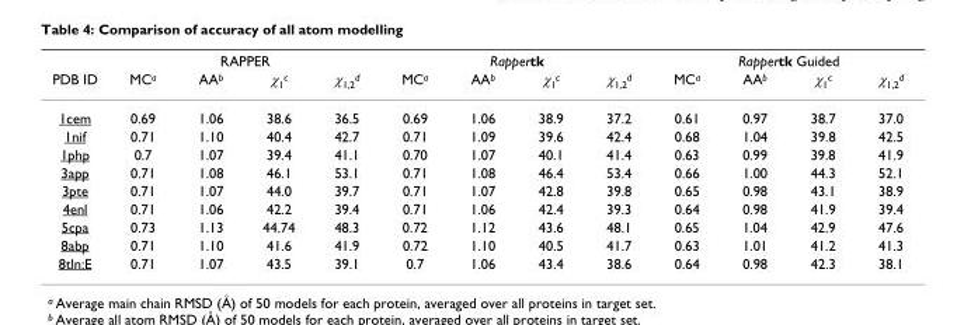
<table><thead><tr><td rowspan="2">PDB ID</td><td colspan="4">RAPPER</td><td colspan="4">Rappertk</td><td colspan="4">Rappertk Guided</td></tr><tr><td>MCa</td><td>AAb</td><td>χ1c</td><td>χ1,2d</td><td>MCa</td><td>AAb</td><td>χ1c</td><td>χ1,2d</td><td>MCa</td><td>AAb</td><td>χ1c</td><td>χ1,2d</td></tr></thead><tbody><tr><td>1cem</td><td>0.69</td><td>1.06</td><td>38.6</td><td>36.5</td><td>0.69</td><td>1.06</td><td>38.9</td><td>37.2</td><td>0.61</td><td>0.97</td><td>38.7</td><td>37.0</td></tr><tr><td>1nif</td><td>0.71</td><td>1.10</td><td>40.4</td><td>42.7</td><td>0.71</td><td>1.09</td><td>39.6</td><td>42.4</td><td>0.68</td><td>1.04</td><td>39.8</td><td>42.5</td></tr><tr><td>1php</td><td>0.7</td><td>1.07</td><td>39.4</td><td>41.1</td><td>0.70</td><td>1.07</td><td>40.1</td><td>41.4</td><td>0.63</td><td>0.99</td><td>39.8</td><td>41.9</td></tr><tr><td>3app</td><td>0.71</td><td>1.08</td><td>46.1</td><td>53.1</td><td>0.71</td><td>1.08</td><td>46.4</td><td>53.4</td><td>0.66</td><td>1.00</td><td>44.3</td><td>52.1</td></tr><tr><td>3pte</td><td>0.71</td><td>1.07</td><td>44.0</td><td>39.7</td><td>0.71</td><td>1.07</td><td>42.8</td><td>39.8</td><td>0.65</td><td>0.98</td><td>43.1</td><td>38.9</td></tr><tr><td>4enl</td><td>0.71</td><td>1.06</td><td>42.2</td><td>39.4</td><td>0.71</td><td>1.06</td><td>42.4</td><td>39.3</td><td>0.64</td><td>0.98</td><td>41.9</td><td>39.4</td></tr><tr><td>5cpa</td><td>0.73</td><td>1.13</td><td>44.74</td><td>48.3</td><td>0.72</td><td>1.12</td><td>43.6</td><td>48.1</td><td>0.65</td><td>1.04</td><td>42.9</td><td>47.6</td></tr><tr><td>8abp</td><td>0.71</td><td>1.10</td><td>41.6</td><td>41.9</td><td>0.72</td><td>1.10</td><td>40.5</td><td>41.7</td><td>0.63</td><td>1.01</td><td>41.2</td><td>41.3</td></tr><tr><td>8tln:E</td><td>0.71</td><td>1.07</td><td>43.5</td><td>39.1</td><td>0.7</td><td>1.06</td><td>43.4</td><td>38.6</td><td>0.64</td><td>0.98</td><td>42.3</td><td>38.1</td></tr></tbody></table>